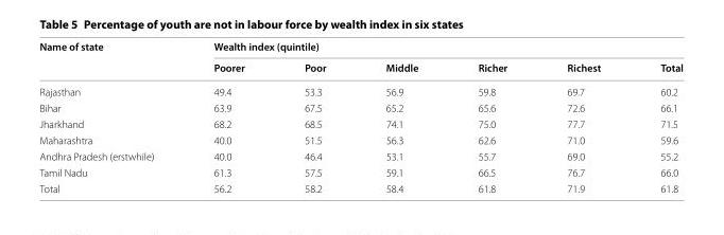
<table><thead><tr><td rowspan="2">Name of state</td><td colspan="6">Wealth index (quintile)</td></tr><tr><td>Poorer</td><td>Poor</td><td>Middle</td><td>Richer</td><td>Richest</td><td>Total</td></tr></thead><tbody><tr><td>Rajasthan</td><td>49.4</td><td>53.3</td><td>56.9</td><td>59.8</td><td>69.7</td><td>60.2</td></tr><tr><td>Bihar</td><td>63.9</td><td>67.5</td><td>65.2</td><td>65.6</td><td>72.6</td><td>66.1</td></tr><tr><td>Jharkhand</td><td>68.2</td><td>68.5</td><td>74.1</td><td>75.0</td><td>77.7</td><td>71.5</td></tr><tr><td>Maharashtra</td><td>40.0</td><td>51.5</td><td>56.3</td><td>62.6</td><td>71.0</td><td>59.6</td></tr><tr><td>Andhra Pradesh (erstwhile)</td><td>40.0</td><td>46.4</td><td>53.1</td><td>55.7</td><td>69.0</td><td>55.2</td></tr><tr><td>Tamil Nadu</td><td>61.3</td><td>57.5</td><td>59.1</td><td>66.5</td><td>76.7</td><td>66.0</td></tr><tr><td>Total</td><td>56.2</td><td>58.2</td><td>58.4</td><td>61.8</td><td>71.9</td><td>61.8</td></tr></tbody></table>